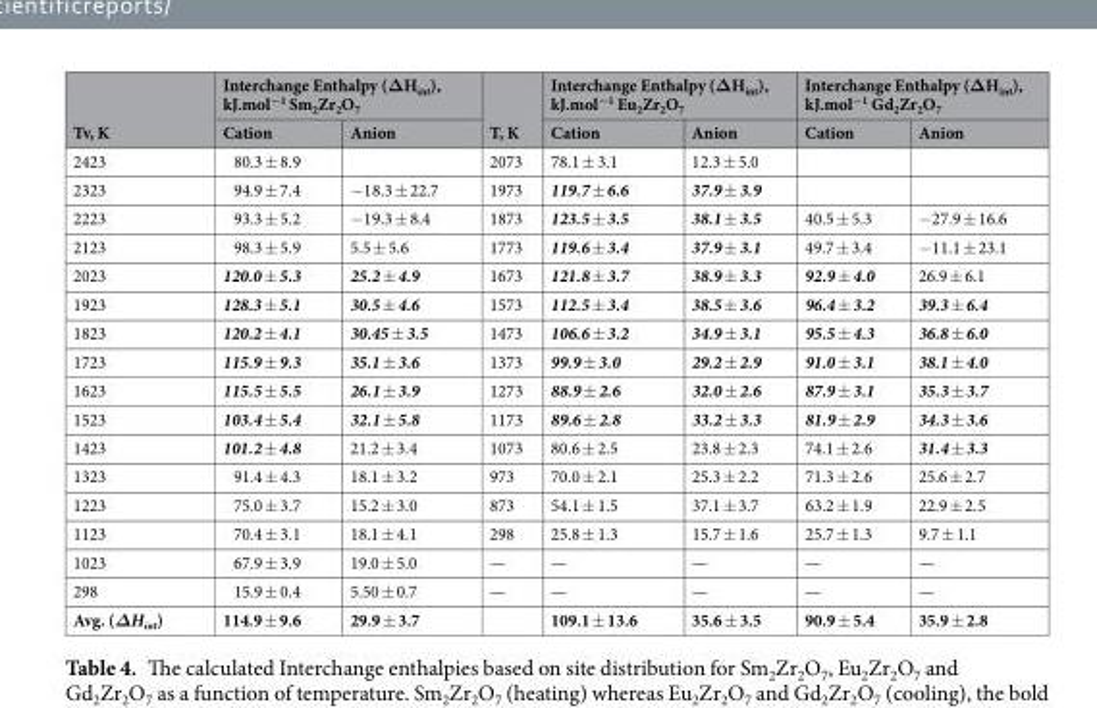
<table><thead><tr><td rowspan="2">Tv, K</td><td colspan="2">Interchange Enthalpy (ΔH<sub>int</sub>), kJ.mol<sup>−1</sup> Sm<sub>2</sub>Zr<sub>2</sub>O<sub>7</sub></td><td rowspan="2">T, K</td><td colspan="2">Interchange Enthalpy (ΔH<sub>int</sub>), kJ.mol<sup>−1</sup> Eu<sub>2</sub>Zr<sub>2</sub>O<sub>7</sub></td><td colspan="2">Interchange Enthalpy (ΔH<sub>int</sub>), kJ.mol<sup>−1</sup> Gd<sub>2</sub>Zr<sub>2</sub>O<sub>7</sub></td></tr><tr><td>Cation</td><td>Anion</td><td>Cation</td><td>Anion</td><td>Cation</td><td>Anion</td></tr></thead><tbody><tr><td>2423</td><td>80.3 ± 8.9</td><td></td><td>2073</td><td>78.1 ± 3.1</td><td>12.3 ± 5.0</td><td></td><td></td></tr><tr><td>2323</td><td>94.9 ± 7.4</td><td>−18.3 ± 22.7</td><td>1973</td><td>119.7 ± 6.6</td><td>37.9 ± 3.9</td><td></td><td></td></tr><tr><td>2223</td><td>93.3 ± 5.2</td><td>−19.3 ± 8.4</td><td>1873</td><td>123.5 ± 3.5</td><td>38.1 ± 3.5</td><td>40.5 ± 5.3</td><td>−27.9 ± 16.6</td></tr><tr><td>2123</td><td>98.3 ± 5.9</td><td>5.5 ± 5.6</td><td>1773</td><td>119.6 ± 3.4</td><td>37.9 ± 3.1</td><td>49.7 ± 3.4</td><td>−11.1 ± 23.1</td></tr><tr><td>2023</td><td>120.0 ± 5.3</td><td>25.2 ± 4.9</td><td>1673</td><td>121.8 ± 3.7</td><td>38.9 ± 3.3</td><td>92.9 ± 4.0</td><td>26.9 ± 6.1</td></tr><tr><td>1923</td><td>128.3 ± 5.1</td><td>30.5 ± 4.6</td><td>1573</td><td>112.5 ± 3.4</td><td>38.5 ± 3.6</td><td>96.4 ± 3.2</td><td>39.3 ± 6.4</td></tr><tr><td>1823</td><td>120.2 ± 4.1</td><td>30.45 ± 3.5</td><td>1473</td><td>106.6 ± 3.2</td><td>34.9 ± 3.1</td><td>95.5 ± 4.3</td><td>36.8 ± 6.0</td></tr><tr><td>1723</td><td>115.9 ± 9.3</td><td>35.1 ± 3.6</td><td>1373</td><td>99.9 ± 3.0</td><td>29.2 ± 2.9</td><td>91.0 ± 3.1</td><td>38.1 ± 4.0</td></tr><tr><td>1623</td><td>115.5 ± 5.5</td><td>26.1 ± 3.9</td><td>1273</td><td>88.9 ± 2.6</td><td>32.0 ± 2.6</td><td>87.9 ± 3.1</td><td>35.3 ± 3.7</td></tr><tr><td>1523</td><td>103.4 ± 5.4</td><td>32.1 ± 5.8</td><td>1173</td><td>89.6 ± 2.8</td><td>33.2 ± 3.3</td><td>81.9 ± 2.9</td><td>34.3 ± 3.6</td></tr><tr><td>1423</td><td>101.2 ± 4.8</td><td>21.2 ± 3.4</td><td>1073</td><td>80.6 ± 2.5</td><td>23.8 ± 2.3</td><td>74.1 ± 2.6</td><td>31.4 ± 3.3</td></tr><tr><td>1323</td><td>91.4 ± 4.3</td><td>18.1 ± 3.2</td><td>973</td><td>70.0 ± 2.1</td><td>25.3 ± 2.2</td><td>71.3 ± 2.6</td><td>25.6 ± 2.7</td></tr><tr><td>1223</td><td>75.0 ± 3.7</td><td>15.2 ± 3.0</td><td>873</td><td>54.1 ± 1.5</td><td>37.1 ± 3.7</td><td>63.2 ± 1.9</td><td>22.9 ± 2.5</td></tr><tr><td>1123</td><td>70.4 ± 3.1</td><td>18.1 ± 4.1</td><td>298</td><td>25.8 ± 1.3</td><td>15.7 ± 1.6</td><td>25.7 ± 1.3</td><td>9.7 ± 1.1</td></tr><tr><td>1023</td><td>67.9 ± 3.9</td><td>19.0 ± 5.0</td><td>—</td><td>—</td><td>—</td><td>—</td><td>—</td></tr><tr><td>298</td><td>15.9 ± 0.4</td><td>5.50 ± 0.7</td><td>—</td><td>—</td><td>—</td><td>—</td><td>—</td></tr><tr><td>Avg. (ΔH<sub>int</sub>)</td><td>114.9 ± 9.6</td><td>29.9 ± 3.7</td><td></td><td>109.1 ± 13.6</td><td>35.6 ± 3.5</td><td>90.9 ± 5.4</td><td>35.9 ± 2.8</td></tr></tbody></table>